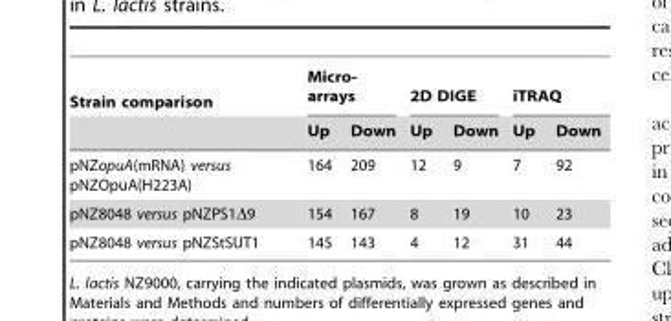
<table><thead><tr><td rowspan="2">Strain comparison</td><td colspan="2">Micro- arrays</td><td colspan="2">2D DIGE</td><td colspan="2">iTRAQ</td></tr><tr><td>Up</td><td>Down</td><td>Up</td><td>Down</td><td>Up</td><td>Down</td></tr></thead><tbody><tr><td>pNZopuA(mRNA) versus pNZOpuA(H223A)</td><td>164</td><td>209</td><td>12</td><td>9</td><td>7</td><td>92</td></tr><tr><td>pNZ8048 versus pNZPS1Δ9</td><td>154</td><td>167</td><td>8</td><td>19</td><td>10</td><td>23</td></tr><tr><td>pNZ8048 versus pNZStSUT1</td><td>145</td><td>143</td><td>4</td><td>12</td><td>31</td><td>44</td></tr></tbody></table>